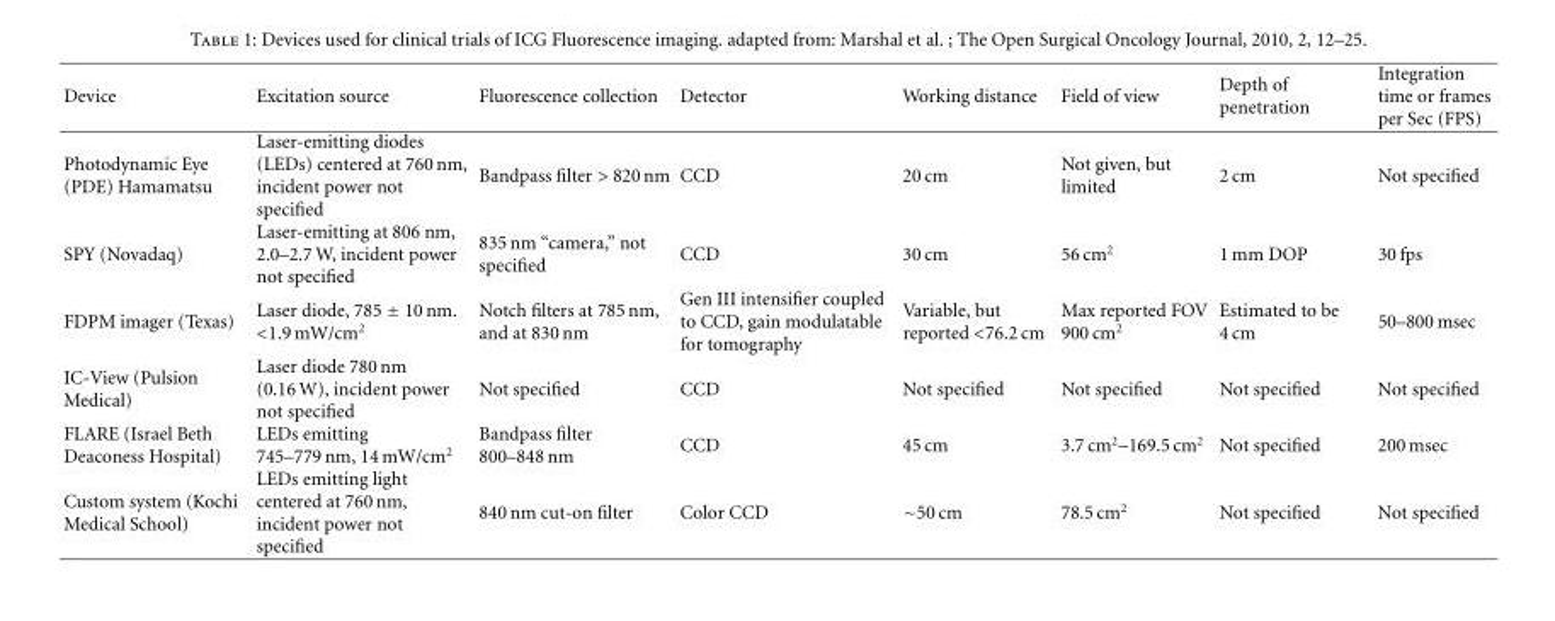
<table><thead><tr><td>Device</td><td>Excitation source</td><td>Fluorescence collection</td><td>Detector</td><td>Working distance</td><td>Field of view</td><td>Depth of penetration</td><td>Integration time or frames per Sec (FPS)</td></tr></thead><tbody><tr><td>Photodynamic Eye (PDE) Hamamatsu</td><td>Laser-emitting diodes (LEDs) centered at 760 nm, incident power not specified</td><td>Bandpass filter &gt; 820 nm</td><td>CCD</td><td>20 cm</td><td>Not given, but limited</td><td>2 cm</td><td>Not specified</td></tr><tr><td>SPY (Novadaq)</td><td>Laser-emitting at 806 nm, 2.0–2.7 W, incident power not specified</td><td>835 nm “camera,” not specified</td><td>CCD</td><td>30 cm</td><td>56 cm<sup>2</sup></td><td>1 mm DOP</td><td>30 fps</td></tr><tr><td>FDPM imager (Texas)</td><td>Laser diode, 785 ± 10 nm. &lt;1.9 mW/cm<sup>2</sup></td><td>Notch filters at 785 nm, and at 830 nm</td><td>Gen III intensifier coupled to CCD, gain modulatable for tomography</td><td>Variable, but reported &lt;76.2 cm</td><td>Max reported FOV 900 cm<sup>2</sup></td><td>Estimated to be 4 cm</td><td>50–800 msec</td></tr><tr><td>IC-View (Pulsion Medical)</td><td>Laser diode 780 nm (0.16 W), incident power not specified</td><td>Not specified</td><td>CCD</td><td>Not specified</td><td>Not specified</td><td>Not specified</td><td>Not specified</td></tr><tr><td>FLARE (Israel Beth Deaconess Hospital)</td><td>LEDs emitting 745–779 nm, 14 mW/cm<sup>2</sup></td><td>Bandpass filter 800–848 nm</td><td>CCD</td><td>45 cm</td><td>3.7 cm<sup>2</sup>–169.5 cm<sup>2</sup></td><td>Not specified</td><td>200 msec</td></tr><tr><td>Custom system (Kochi Medical School)</td><td>LEDs emitting light centered at 760 nm, incident power not specified</td><td>840 nm cut-on filter</td><td>Color CCD</td><td>∼50 cm</td><td>78.5 cm<sup>2</sup></td><td>Not specified</td><td>Not specified</td></tr></tbody></table>